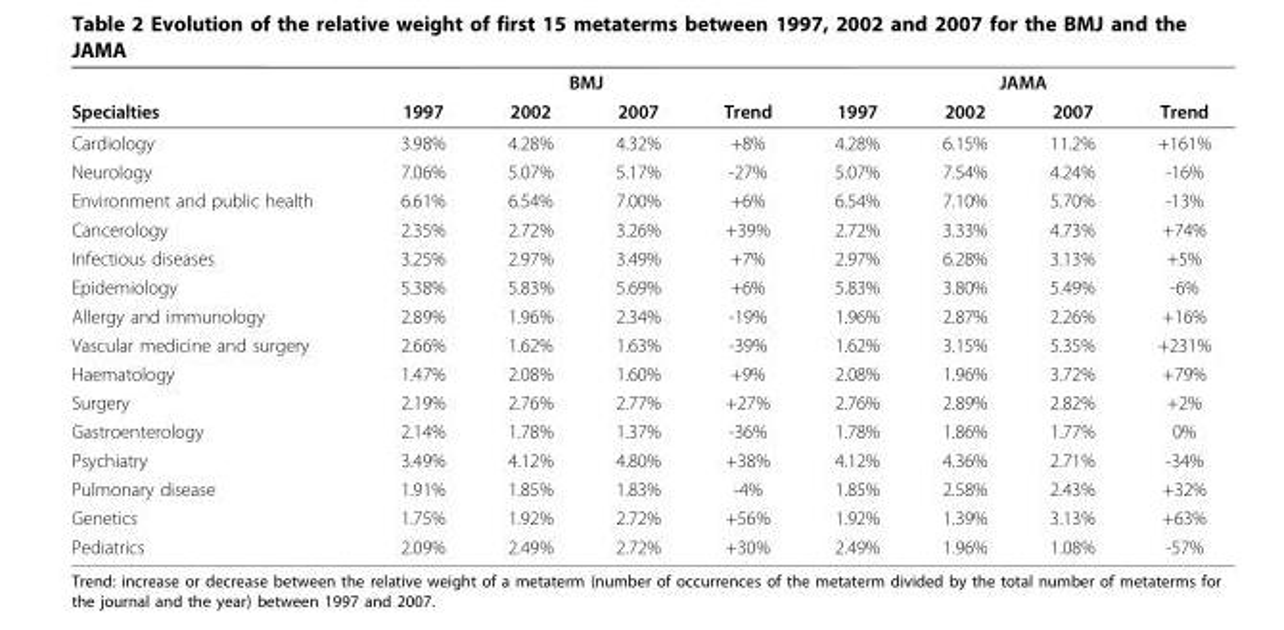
<table><thead><tr><td rowspan="2">Specialties</td><td colspan="4">BMJ</td><td colspan="4">JAMA</td></tr><tr><td>1997</td><td>2002</td><td>2007</td><td>Trend</td><td>1997</td><td>2002</td><td>2007</td><td>Trend</td></tr></thead><tbody><tr><td>Cardiology</td><td>3.98%</td><td>4.28%</td><td>4.32%</td><td>+8%</td><td>4.28%</td><td>6.15%</td><td>11.2%</td><td>+161%</td></tr><tr><td>Neurology</td><td>7.06%</td><td>5.07%</td><td>5.17%</td><td>-27%</td><td>5.07%</td><td>7.54%</td><td>4.24%</td><td>-16%</td></tr><tr><td>Environment and public health</td><td>6.61%</td><td>6.54%</td><td>7.00%</td><td>+6%</td><td>6.54%</td><td>7.10%</td><td>5.70%</td><td>-13%</td></tr><tr><td>Cancerology</td><td>2.35%</td><td>2.72%</td><td>3.26%</td><td>+39%</td><td>2.72%</td><td>3.33%</td><td>4.73%</td><td>+74%</td></tr><tr><td>Infectious diseases</td><td>3.25%</td><td>2.97%</td><td>3.49%</td><td>+7%</td><td>2.97%</td><td>6.28%</td><td>3.13%</td><td>+5%</td></tr><tr><td>Epidemiology</td><td>5.38%</td><td>5.83%</td><td>5.69%</td><td>+6%</td><td>5.83%</td><td>3.80%</td><td>5.49%</td><td>-6%</td></tr><tr><td>Allergy and immunology</td><td>2.89%</td><td>1.96%</td><td>2.34%</td><td>-19%</td><td>1.96%</td><td>2.87%</td><td>2.26%</td><td>+16%</td></tr><tr><td>Vascular medicine and surgery</td><td>2.66%</td><td>1.62%</td><td>1.63%</td><td>-39%</td><td>1.62%</td><td>3.15%</td><td>5.35%</td><td>+231%</td></tr><tr><td>Haematology</td><td>1.47%</td><td>2.08%</td><td>1.60%</td><td>+9%</td><td>2.08%</td><td>1.96%</td><td>3.72%</td><td>+79%</td></tr><tr><td>Surgery</td><td>2.19%</td><td>2.76%</td><td>2.77%</td><td>+27%</td><td>2.76%</td><td>2.89%</td><td>2.82%</td><td>+2%</td></tr><tr><td>Gastroenterology</td><td>2.14%</td><td>1.78%</td><td>1.37%</td><td>-36%</td><td>1.78%</td><td>1.86%</td><td>1.77%</td><td>0%</td></tr><tr><td>Psychiatry</td><td>3.49%</td><td>4.12%</td><td>4.80%</td><td>+38%</td><td>4.12%</td><td>4.36%</td><td>2.71%</td><td>-34%</td></tr><tr><td>Pulmonary disease</td><td>1.91%</td><td>1.85%</td><td>1.83%</td><td>-4%</td><td>1.85%</td><td>2.58%</td><td>2.43%</td><td>+32%</td></tr><tr><td>Genetics</td><td>1.75%</td><td>1.92%</td><td>2.72%</td><td>+56%</td><td>1.92%</td><td>1.39%</td><td>3.13%</td><td>+63%</td></tr><tr><td>Pediatrics</td><td>2.09%</td><td>2.49%</td><td>2.72%</td><td>+30%</td><td>2.49%</td><td>1.96%</td><td>1.08%</td><td>-57%</td></tr></tbody></table>